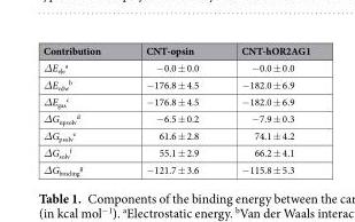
<table><thead><tr><td>Contribution</td><td>CNT-opsin</td><td>CNT-hOR2AG1</td></tr></thead><tbody><tr><td>ΔE<sub>ele</sub> <sup>a</sup></td><td>−0.0 ± 0.0</td><td>−0.0 ± 0.0</td></tr><tr><td>ΔE<sub>vdw</sub> <sup>b</sup></td><td>−176.8 ± 4.5</td><td>−182.0 ± 6.9</td></tr><tr><td>ΔE<sub>gas</sub> <sup>c</sup></td><td>−176.8 ± 4.5</td><td>−182.0 ± 6.9</td></tr><tr><td>ΔG<sub>npsolv</sub> <sup>d</sup></td><td>−6.5 ± 0.2</td><td>−7.9 ± 0.3</td></tr><tr><td>ΔG<sub>psolv</sub> <sup>e</sup></td><td>61.6 ± 2.8</td><td>74.1 ± 4.2</td></tr><tr><td>ΔG<sub>solv</sub> <sup>f</sup></td><td>55.1 ± 2.9</td><td>66.2 ± 4.1</td></tr><tr><td>ΔG<sub>binding</sub> <sup>g</sup></td><td>−121.7 ± 3.6</td><td>−115.8 ± 5.3</td></tr></tbody></table>